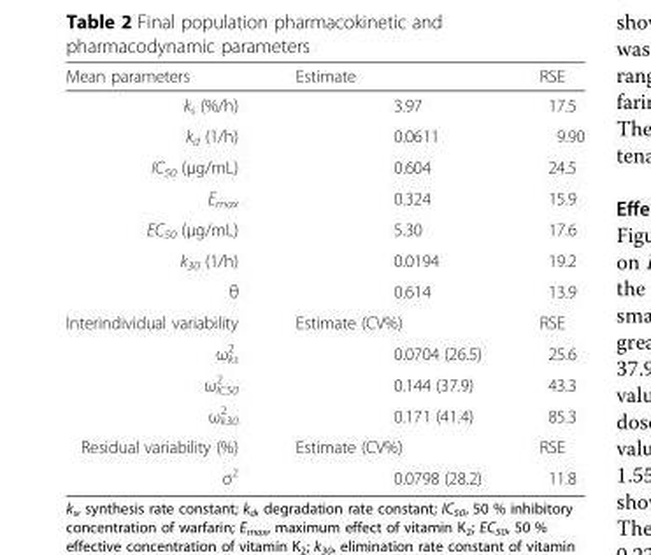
<table><thead><tr><td>Mean parameters</td><td>Estimate</td><td>RSE</td></tr></thead><tbody><tr><td>k<sub>s</sub> (%/h)</td><td>3.97</td><td>17.5</td></tr><tr><td>k<sub>d</sub> (1/h)</td><td>0.0611</td><td>9.90</td></tr><tr><td>IC<sub>50</sub> (μg/mL)</td><td>0.604</td><td>24.5</td></tr><tr><td>E<sub>max</sub></td><td>0.324</td><td>15.9</td></tr><tr><td>EC<sub>50</sub> (μg/mL)</td><td>5.30</td><td>17.6</td></tr><tr><td>k<sub>30</sub> (1/h)</td><td>0.0194</td><td>19.2</td></tr><tr><td>θ</td><td>0.614</td><td>13.9</td></tr><tr><td>Interindividual variability</td><td>Estimate (CV%)</td><td>RSE</td></tr><tr><td>ω<sub>ks</sub> <sup>2</sup></td><td>0.0704 (26.5)</td><td>25.6</td></tr><tr><td>ω<sub>IC50</sub> <sup>2</sup></td><td>0.144 (37.9)</td><td>43.3</td></tr><tr><td>ω<sub>k30</sub> <sup>2</sup></td><td>0.171 (41.4)</td><td>85.3</td></tr><tr><td>Residual variability (%)</td><td>Estimate (CV%)</td><td>RSE</td></tr><tr><td>σ<sup>2</sup></td><td>0.0798 (28.2)</td><td>11.8</td></tr></tbody></table>